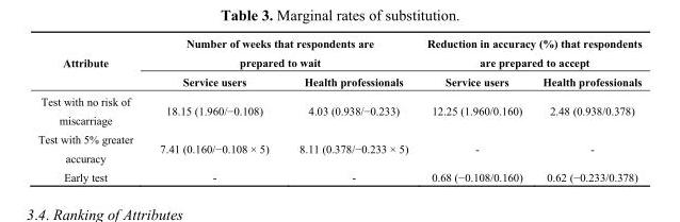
<table><thead><tr><td rowspan="2">Attribute</td><td colspan="2">Number of weeks that respondents are prepared to wait</td><td colspan="2">Reduction in accuracy (%) that respondents are prepared to accept</td></tr><tr><td>Service users</td><td>Health professionals</td><td>Service users</td><td>Health professionals</td></tr></thead><tbody><tr><td>Test with no risk of miscarriage</td><td>18.15 (1.960/−0.108)</td><td>4.03 (0.938/−0.233)</td><td>12.25 (1.960/0.160)</td><td>2.48 (0.938/0.378)</td></tr><tr><td>Test with 5% greater accuracy</td><td>7.41 (0.160/−0.108 × 5)</td><td>8.11 (0.378/−0.233 × 5)</td><td>-</td><td>-</td></tr><tr><td>Early test</td><td>-</td><td>-</td><td>0.68 (−0.108/0.160)</td><td>0.62 (−0.233/0.378)</td></tr></tbody></table>